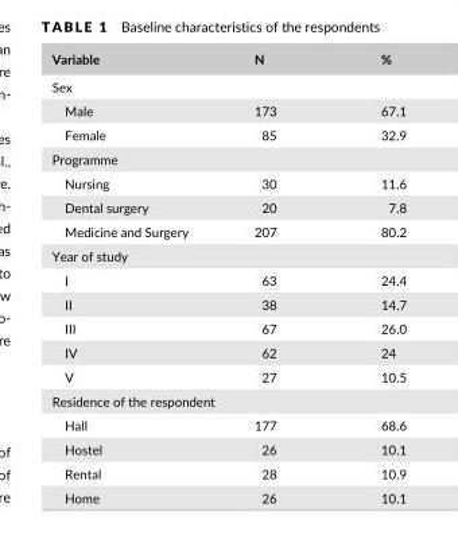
<table><thead><tr><td>Variable</td><td>N</td><td>%</td></tr></thead><tbody><tr><td colspan="3">Sex</td></tr><tr><td>Male</td><td>173</td><td>67.1</td></tr><tr><td>Female</td><td>85</td><td>32.9</td></tr><tr><td colspan="3">Programme</td></tr><tr><td>Nursing</td><td>30</td><td>11.6</td></tr><tr><td>Dental surgery</td><td>20</td><td>7.8</td></tr><tr><td>Medicine and Surgery</td><td>207</td><td>80.2</td></tr><tr><td colspan="3">Year of study</td></tr><tr><td>I</td><td>63</td><td>24.4</td></tr><tr><td>II</td><td>38</td><td>14.7</td></tr><tr><td>III</td><td>67</td><td>26.0</td></tr><tr><td>IV</td><td>62</td><td>24</td></tr><tr><td>V</td><td>27</td><td>10.5</td></tr><tr><td colspan="3">Residence of the respondent</td></tr><tr><td>Hall</td><td>177</td><td>68.6</td></tr><tr><td>Hostel</td><td>26</td><td>10.1</td></tr><tr><td>Rental</td><td>28</td><td>10.9</td></tr><tr><td>Home</td><td>26</td><td>10.1</td></tr></tbody></table>